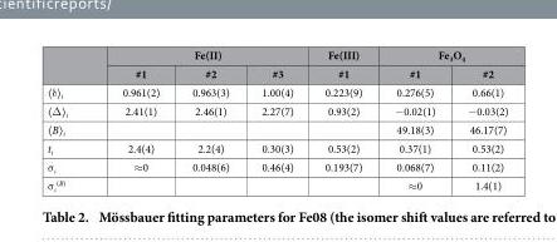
<table><thead><tr><td rowspan="2"></td><td colspan="3">Fe(II)</td><td rowspan="2">Fe(III) #1</td><td colspan="2">Fe<sub>3</sub>O<sub>4</sub></td></tr><tr><td>#1</td><td>#2</td><td>#3</td><td>#1</td><td>#2</td></tr></thead><tbody><tr><td>〈 δ 〉 <sub>i</sub></td><td>0.961(2)</td><td>0.963(3)</td><td>1.00(4)</td><td>0.223(9)</td><td>0.276(5)</td><td>0.66(1)</td></tr><tr><td>〈 Δ 〉 <sub>i</sub></td><td>2.41(1)</td><td>2.46(1)</td><td>2.27(7)</td><td>0.93(2)</td><td>− 0.02(1)</td><td>− 0.03(2)</td></tr><tr><td>〈 B〉 <sub>i</sub></td><td></td><td></td><td></td><td></td><td>49.18(3)</td><td>46.17(7)</td></tr><tr><td>t<sub>i</sub></td><td>2.4(4)</td><td>2.2(4)</td><td>0.30(3)</td><td>0.53(2)</td><td>0.37(1)</td><td>0.53(2)</td></tr><tr><td>σ <sub>ι</sub></td><td>≈ 0</td><td>0.048(6)</td><td>0.46(4)</td><td>0.193(7)</td><td>0.068(7)</td><td>0.11(2)</td></tr><tr><td>σ <sub>ι</sub> <sup>(B)</sup></td><td></td><td></td><td></td><td></td><td>≈ 0</td><td>1.4(1)</td></tr></tbody></table>